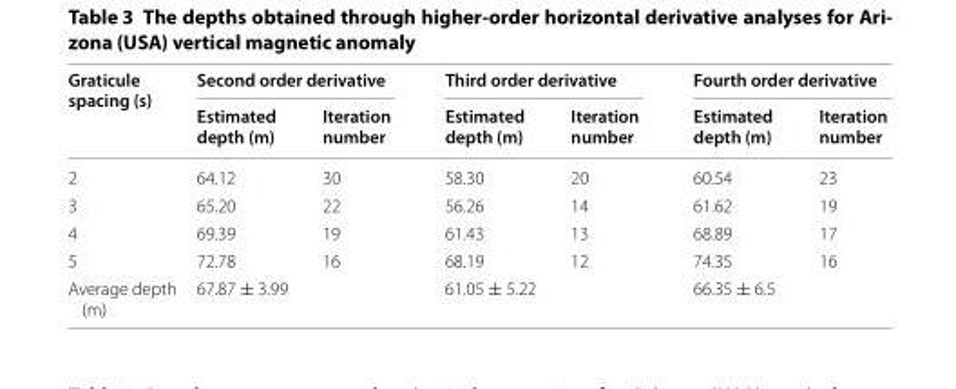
<table><thead><tr><td rowspan="2">Graticule spacing (s)</td><td colspan="2">Second order derivative</td><td colspan="2">Third order derivative</td><td colspan="2">Fourth order derivative</td></tr><tr><td>Estimated depth (m)</td><td>Iteration number</td><td>Estimated depth (m)</td><td>Iteration number</td><td>Estimated depth (m)</td><td>Iteration number</td></tr></thead><tbody><tr><td>2</td><td>64.12</td><td>30</td><td>58.30</td><td>20</td><td>60.54</td><td>23</td></tr><tr><td>3</td><td>65.20</td><td>22</td><td>56.26</td><td>14</td><td>61.62</td><td>19</td></tr><tr><td>4</td><td>69.39</td><td>19</td><td>61.43</td><td>13</td><td>68.89</td><td>17</td></tr><tr><td>5</td><td>72.78</td><td>16</td><td>68.19</td><td>12</td><td>74.35</td><td>16</td></tr><tr><td>Average depth (m)</td><td>67.87 ± 3.99</td><td></td><td>61.05 ± 5.22</td><td></td><td>66.35 ± 6.5</td><td></td></tr></tbody></table>